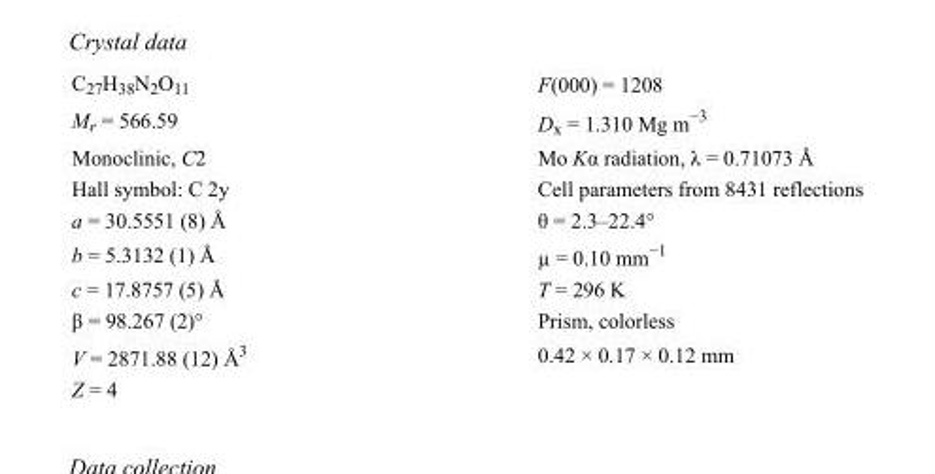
<table><tbody><tr><td>C<sub>27</sub>H<sub>38</sub>N<sub>2</sub>O<sub>11</sub></td><td>F(000) = 1208</td></tr><tr><td>M<sub>r</sub> = 566.59</td><td>D<sub>x</sub> = 1.310 Mg m<sup>−3</sup></td></tr><tr><td>Monoclinic, C2</td><td>Mo Kα radiation, λ = 0.71073 Å</td></tr><tr><td>Hall symbol: C 2y</td><td>Cell parameters from 8431 reflections</td></tr><tr><td>a = 30.5551 (8) Å</td><td>θ = 2.3–22.4°</td></tr><tr><td>b = 5.3132 (1) Å</td><td>µ = 0.10 mm<sup>−1</sup></td></tr><tr><td>c = 17.8757 (5) Å</td><td>T = 296 K</td></tr><tr><td>β = 98.267 (2)°</td><td>Prism, colorless</td></tr><tr><td>V = 2871.88 (12) Å<sup>3</sup></td><td>0.42 × 0.17 × 0.12 mm</td></tr><tr><td>Z = 4</td><td></td></tr></tbody></table>